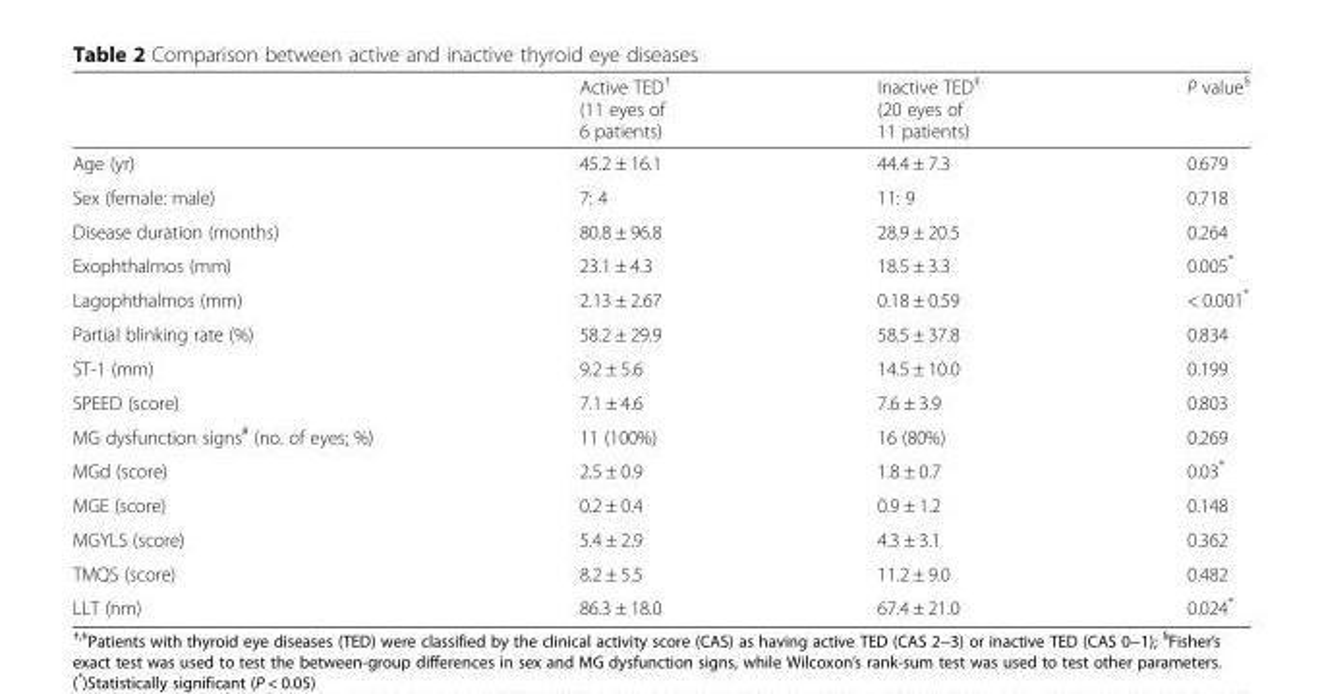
<table><thead><tr><td></td><td>Active TED<sup>†</sup> (11 eyes of 6 patients)</td><td>Inactive TED<sup>‡</sup> (20 eyes of 11 patients)</td><td>P value<sup>§</sup></td></tr></thead><tbody><tr><td>Age (yr)</td><td>45.2 ± 16.1</td><td>44.4 ± 7.3</td><td>0.679</td></tr><tr><td>Sex (female: male)</td><td>7: 4</td><td>11: 9</td><td>0.718</td></tr><tr><td>Disease duration (months)</td><td>80.8 ± 96.8</td><td>28.9 ± 20.5</td><td>0.264</td></tr><tr><td>Exophthalmos (mm)</td><td>23.1 ± 4.3</td><td>18.5 ± 3.3</td><td>0.005*</td></tr><tr><td>Lagophthalmos (mm)</td><td>2.13 ± 2.67</td><td>0.18 ± 0.59</td><td>&lt; 0.001*</td></tr><tr><td>Partial blinking rate (%)</td><td>58.2 ± 29.9</td><td>58.5 ± 37.8</td><td>0.834</td></tr><tr><td>ST-1 (mm)</td><td>9.2 ± 5.6</td><td>14.5 ± 10.0</td><td>0.199</td></tr><tr><td>SPEED (score)</td><td>7.1 ± 4.6</td><td>7.6 ± 3.9</td><td>0.803</td></tr><tr><td>MG dysfunction signs<sup>#</sup> (no. of eyes; %)</td><td>11 (100%)</td><td>16 (80%)</td><td>0.269</td></tr><tr><td>MGd (score)</td><td>2.5 ± 0.9</td><td>1.8 ± 0.7</td><td>0.03*</td></tr><tr><td>MGE (score)</td><td>0.2 ± 0.4</td><td>0.9 ± 1.2</td><td>0.148</td></tr><tr><td>MGYLS (score)</td><td>5.4 ± 2.9</td><td>4.3 ± 3.1</td><td>0.362</td></tr><tr><td>TMQS (score)</td><td>8.2 ± 5.5</td><td>11.2 ± 9.0</td><td>0.482</td></tr><tr><td>LLT (nm)</td><td>86.3 ± 18.0</td><td>67.4 ± 21.0</td><td>0.024*</td></tr></tbody></table>